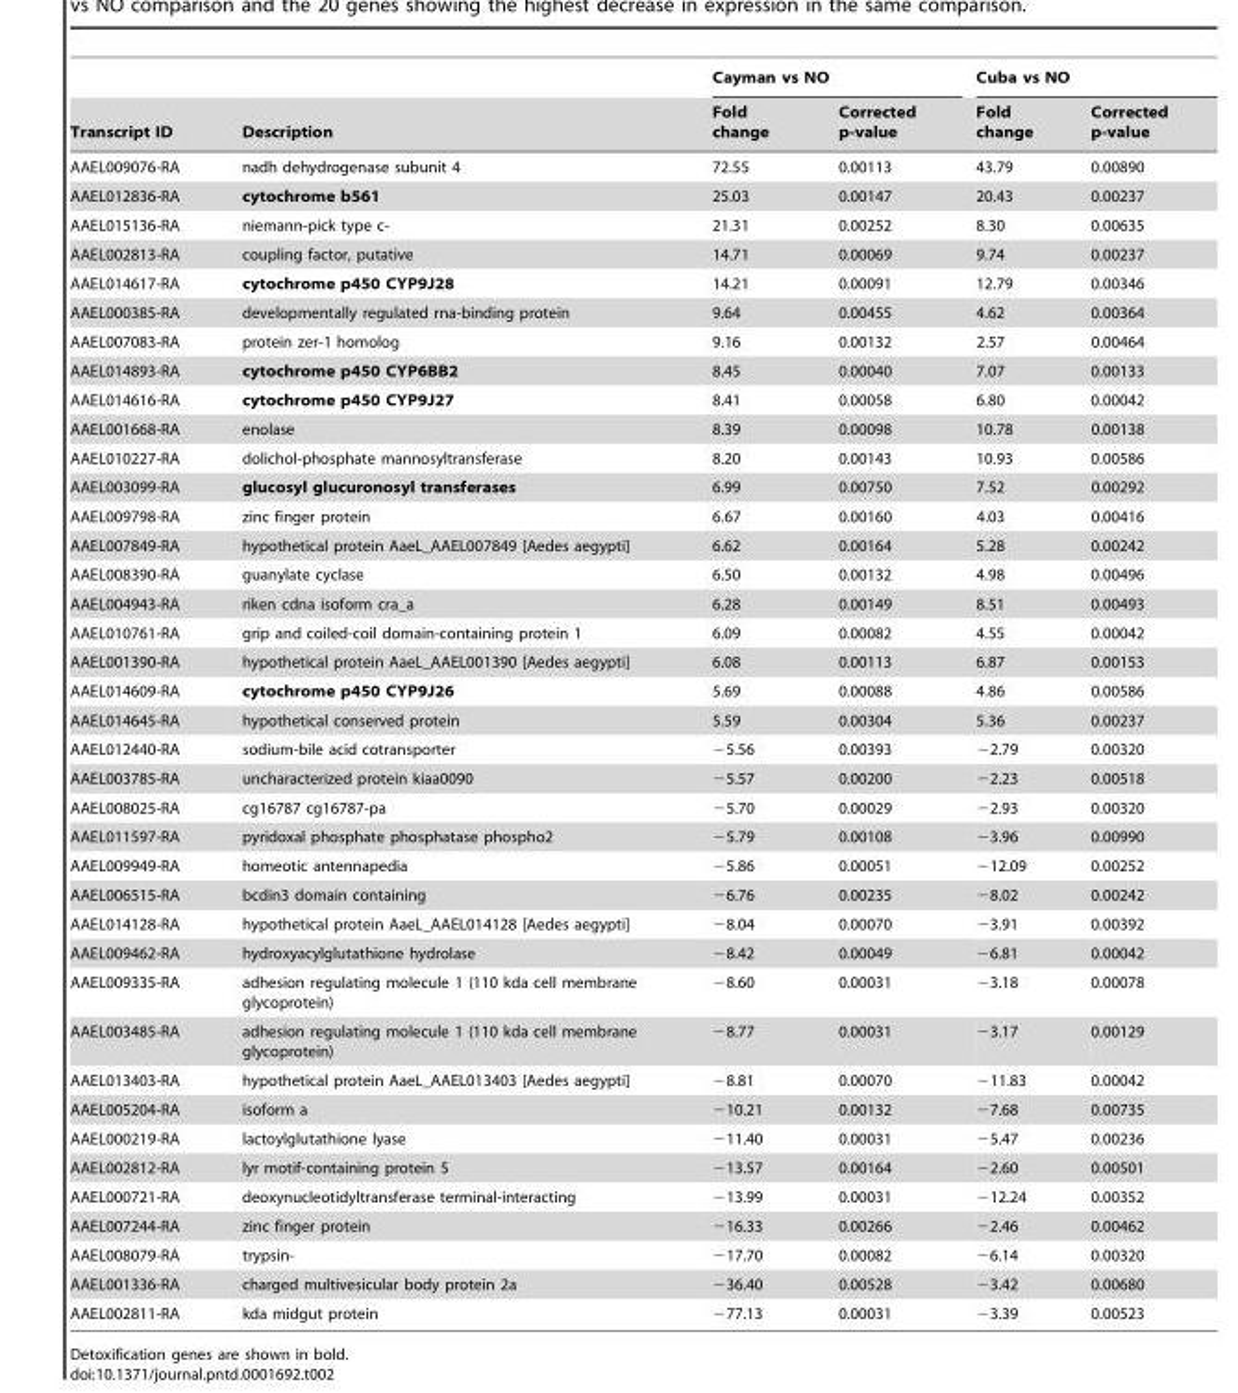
<table><thead><tr><td rowspan="2">Transcript ID</td><td rowspan="2">Description</td><td colspan="2">Cayman vs NO</td><td colspan="2">Cuba vs NO</td></tr><tr><td>Fold change</td><td>Corrected p-value</td><td>Fold change</td><td>Corrected p-value</td></tr></thead><tbody><tr><td>AAEL009076-RA</td><td>nadh dehydrogenase subunit 4</td><td>72.55</td><td>0.00113</td><td>43.79</td><td>0.00890</td></tr><tr><td>AAEL012836-RA</td><td>cytochrome b561</td><td>25.03</td><td>0.00147</td><td>20.43</td><td>0.00237</td></tr><tr><td>AAEL015136-RA</td><td>niemann-pick type c-</td><td>21.31</td><td>0.00252</td><td>8.30</td><td>0.00635</td></tr><tr><td>AAEL002813-RA</td><td>coupling factor, putative</td><td>14.71</td><td>0.00069</td><td>9.74</td><td>0.00237</td></tr><tr><td>AAEL014617-RA</td><td>cytochrome p450 CYP9J28</td><td>14.21</td><td>0.00091</td><td>12.79</td><td>0.00346</td></tr><tr><td>AAEL000385-RA</td><td>developmentally regulated rna-binding protein</td><td>9.64</td><td>0.00455</td><td>4.62</td><td>0.00364</td></tr><tr><td>AAEL007083-RA</td><td>protein zer-1 homolog</td><td>9.16</td><td>0.00132</td><td>2.57</td><td>0.00464</td></tr><tr><td>AAEL014893-RA</td><td>cytochrome p450 CYP6BB2</td><td>8.45</td><td>0.00040</td><td>7.07</td><td>0.00133</td></tr><tr><td>AAEL014616-RA</td><td>cytochrome p450 CYP9J27</td><td>8.41</td><td>0.00058</td><td>6.80</td><td>0.00042</td></tr><tr><td>AAEL001668-RA</td><td>enolase</td><td>8.39</td><td>0.00098</td><td>10.78</td><td>0.00138</td></tr><tr><td>AAEL010227-RA</td><td>dolichol-phosphate mannosyltransferase</td><td>8.20</td><td>0.00143</td><td>10.93</td><td>0.00586</td></tr><tr><td>AAEL003099-RA</td><td>glucosyl glucuronosyl transferases</td><td>6.99</td><td>0.00750</td><td>7.52</td><td>0.00292</td></tr><tr><td>AAEL009798-RA</td><td>zinc finger protein</td><td>6.67</td><td>0.00160</td><td>4.03</td><td>0.00416</td></tr><tr><td>AAEL007849-RA</td><td>hypothetical protein AaeL_AAEL007849 [Aedes aegypti]</td><td>6.62</td><td>0.00164</td><td>5.28</td><td>0.00242</td></tr><tr><td>AAEL008390-RA</td><td>guanylate cyclase</td><td>6.50</td><td>0.00132</td><td>4.98</td><td>0.00496</td></tr><tr><td>AAEL004943-RA</td><td>riken cdna isoform cra_a</td><td>6.28</td><td>0.00149</td><td>8.51</td><td>0.00493</td></tr><tr><td>AAEL010761-RA</td><td>grip and coiled-coil domain-containing protein 1</td><td>6.09</td><td>0.00082</td><td>4.55</td><td>0.00042</td></tr><tr><td>AAEL001390-RA</td><td>hypothetical protein AaeL_AAEL001390 [Aedes aegypti]</td><td>6.08</td><td>0.00113</td><td>6.87</td><td>0.00153</td></tr><tr><td>AAEL014609-RA</td><td>cytochrome p450 CYP9J26</td><td>5.69</td><td>0.00088</td><td>4.86</td><td>0.00586</td></tr><tr><td>AAEL014645-RA</td><td>hypothetical conserved protein</td><td>5.59</td><td>0.00304</td><td>5.36</td><td>0.00237</td></tr><tr><td>AAEL012440-RA</td><td>sodium-bile acid cotransporter</td><td>−5.56</td><td>0.00393</td><td>−2.79</td><td>0.00320</td></tr><tr><td>AAEL003785-RA</td><td>uncharacterized protein kiaa0090</td><td>−5.57</td><td>0.00200</td><td>−2.23</td><td>0.00518</td></tr><tr><td>AAEL008025-RA</td><td>cg16787 cg16787-pa</td><td>−5.70</td><td>0.00029</td><td>−2.93</td><td>0.00320</td></tr><tr><td>AAEL011597-RA</td><td>pyridoxal phosphate phosphatase phospho2</td><td>−5.79</td><td>0.00108</td><td>−3.96</td><td>0.00990</td></tr><tr><td>AAEL009949-RA</td><td>homeotic antennapedia</td><td>−5.86</td><td>0.00051</td><td>−12.09</td><td>0.00252</td></tr><tr><td>AAEL006515-RA</td><td>bcdin3 domain containing</td><td>−6.76</td><td>0.00235</td><td>−8.02</td><td>0.00242</td></tr><tr><td>AAEL014128-RA</td><td>hypothetical protein AaeL_AAEL014128 [Aedes aegypti]</td><td>−8.04</td><td>0.00070</td><td>−3.91</td><td>0.00392</td></tr><tr><td>AAEL009462-RA</td><td>hydroxyacylglutathione hydrolase</td><td>−8.42</td><td>0.00049</td><td>−6.81</td><td>0.00042</td></tr><tr><td>AAEL009335-RA</td><td>adhesion regulating molecule 1 (110 kda cell membrane glycoprotein)</td><td>−8.60</td><td>0.00031</td><td>−3.18</td><td>0.00078</td></tr><tr><td>AAEL003485-RA</td><td>adhesion regulating molecule 1 (110 kda cell membrane glycoprotein)</td><td>−8.77</td><td>0.00031</td><td>−3.17</td><td>0.00129</td></tr><tr><td>AAEL013403-RA</td><td>hypothetical protein AaeL_AAEL013403 [Aedes aegypti]</td><td>−8.81</td><td>0.00070</td><td>−11.83</td><td>0.00042</td></tr><tr><td>AAEL005204-RA</td><td>isoform a</td><td>−10.21</td><td>0.00132</td><td>−7.68</td><td>0.00735</td></tr><tr><td>AAEL000219-RA</td><td>lactoylglutathione lyase</td><td>−11.40</td><td>0.00031</td><td>−5.47</td><td>0.00236</td></tr><tr><td>AAEL002812-RA</td><td>lyr motif-containing protein 5</td><td>−13.57</td><td>0.00164</td><td>−2.60</td><td>0.00501</td></tr><tr><td>AAEL000721-RA</td><td>deoxynucleotidyltransferase terminal-interacting</td><td>−13.99</td><td>0.00031</td><td>−12.24</td><td>0.00352</td></tr><tr><td>AAEL007244-RA</td><td>zinc finger protein</td><td>−16.33</td><td>0.00266</td><td>−2.46</td><td>0.00462</td></tr><tr><td>AAEL008079-RA</td><td>trypsin-</td><td>−17.70</td><td>0.00082</td><td>−6.14</td><td>0.00320</td></tr><tr><td>AAEL001336-RA</td><td>charged multivesicular body protein 2a</td><td>−36.40</td><td>0.00528</td><td>−3.42</td><td>0.00680</td></tr><tr><td>AAEL002811-RA</td><td>kda midgut protein</td><td>−77.13</td><td>0.00031</td><td>−3.39</td><td>0.00523</td></tr></tbody></table>